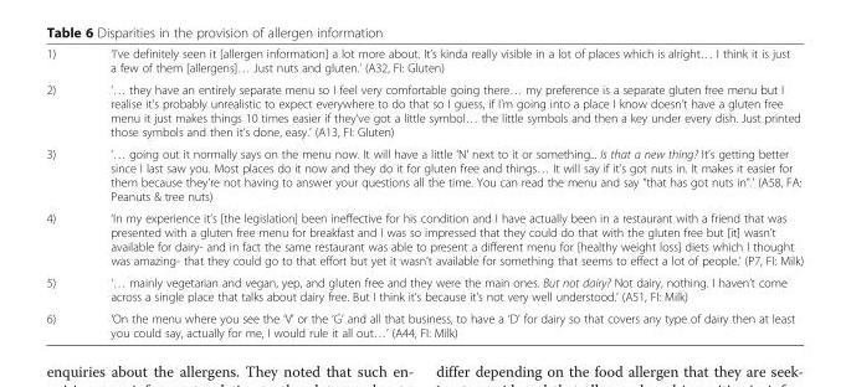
<table><tbody><tr><td>1)</td><td>‘I’ve definitely seen it [allergen information] a lot more about. It’s kinda really visible in a lot of places which is alright… I think it is just a few of them [allergens]… Just nuts and gluten.’ (A32, FI: Gluten)</td></tr><tr><td>2)</td><td>‘… they have an entirely separate menu so I feel very comfortable going there… my preference is a separate gluten free menu but I realise it’s probably unrealistic to expect everywhere to do that so I guess, if I’m going into a place I know doesn’t have a gluten free menu it just makes things 10 times easier if they’ve got a little symbol… the little symbols and then a key under every dish. Just printed those symbols and then it’s done, easy.’ (A13, FI: Gluten)</td></tr><tr><td>3)</td><td>‘… going out it normally says on the menu now. It will have a little ‘N’ next to it or something... Is that a new thing? It’s getting better since I last saw you. Most places do it now and they do it for gluten free and things… It will say if it’s got nuts in. It makes it easier for them because they’re not having to answer your questions all the time. You can read the menu and say “that has got nuts in”.’ (A58, FA: Peanuts &amp; tree nuts)</td></tr><tr><td>4)</td><td>‘In my experience it’s [the legislation] been ineffective for his condition and I have actually been in a restaurant with a friend that was presented with a gluten free menu for breakfast and I was so impressed that they could do that with the gluten free but [it] wasn’t available for dairy- and in fact the same restaurant was able to present a different menu for [healthy weight loss] diets which I thought was amazing- that they could go to that effort but yet it wasn’t available for something that seems to effect a lot of people.’ (P7, FI: Milk)</td></tr><tr><td>5)</td><td>‘… mainly vegetarian and vegan, yep, and gluten free and they were the main ones. But not dairy? Not dairy, nothing. I haven’t come across a single place that talks about dairy free. But I think it’s because it’s not very well understood.’ (A51, FI: Milk)</td></tr><tr><td>6)</td><td>‘On the menu where you see the ‘V’ or the ‘G’ and all that business, to have a ‘D’ for dairy so that covers any type of dairy then at least you could say, actually for me, I would rule it all out…’ (A44, FI: Milk)</td></tr></tbody></table>